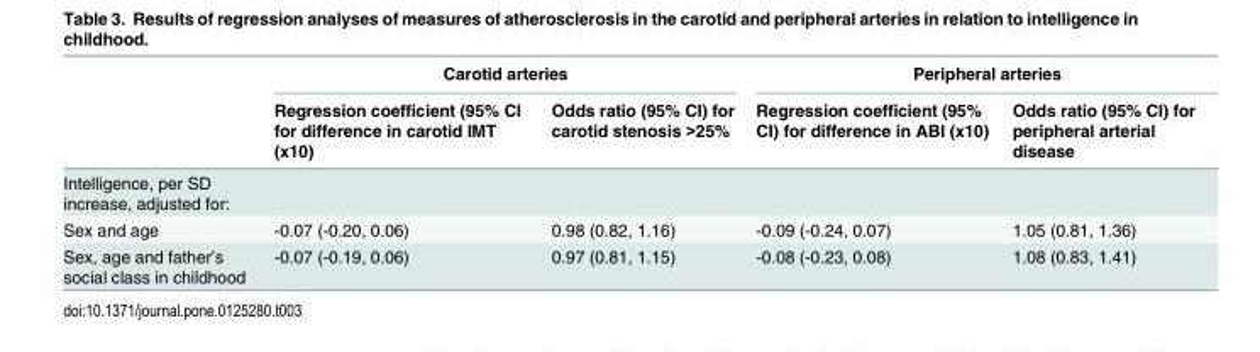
<table><thead><tr><td rowspan="2"></td><td colspan="2">Carotid arteries</td><td colspan="2">Peripheral arteries</td></tr><tr><td>Regression coefficient (95% CI for difference in carotid IMT (x10)</td><td>Odds ratio (95% CI) for carotid stenosis &gt;25%</td><td>Regression coefficient (95% CI) for difference in ABI (x10)</td><td>Odds ratio (95% CI) for peripheral arterial disease</td></tr></thead><tbody><tr><td colspan="5">Intelligence, per SD increase, adjusted for:</td></tr><tr><td>Sex and age</td><td>-0.07 (-0.20, 0.06)</td><td>0.98 (0.82, 1.16)</td><td>-0.09 (-0.24, 0.07)</td><td>1.05 (0.81, 1.36)</td></tr><tr><td>Sex, age and father’s social class in childhood</td><td>-0.07 (-0.19, 0.06)</td><td>0.97 (0.81, 1.15)</td><td>-0.08 (-0.23, 0.08)</td><td>1.08 (0.83, 1.41)</td></tr></tbody></table>